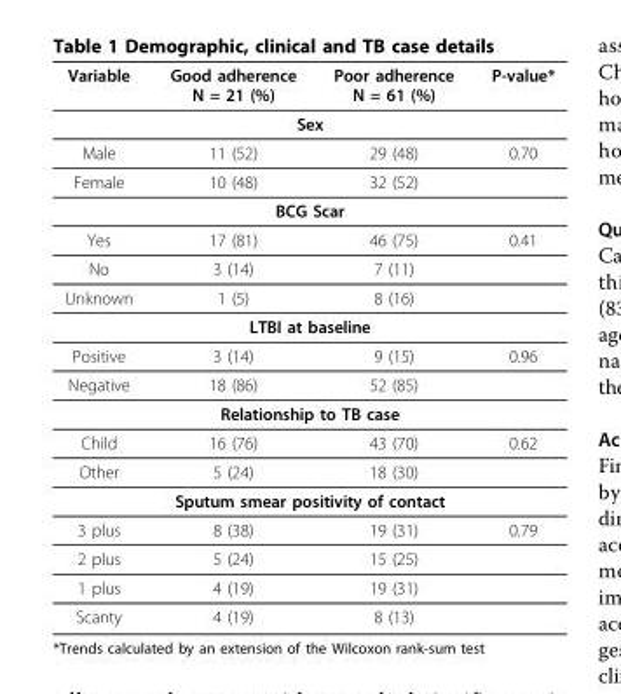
<table><thead><tr><td>Variable</td><td>Good adherence N = 21 (%)</td><td>Poor adherence N = 61 (%)</td><td>P-value*</td></tr></thead><tbody><tr><td colspan="4">Sex</td></tr><tr><td>Male</td><td>11 (52)</td><td>29 (48)</td><td>0.70</td></tr><tr><td>Female</td><td>10 (48)</td><td>32 (52)</td><td></td></tr><tr><td colspan="4">BCG Scar</td></tr><tr><td>Yes</td><td>17 (81)</td><td>46 (75)</td><td>0.41</td></tr><tr><td>No</td><td>3 (14)</td><td>7 (11)</td><td></td></tr><tr><td>Unknown</td><td>1 (5)</td><td>8 (16)</td><td></td></tr><tr><td colspan="4">LTBI at baseline</td></tr><tr><td>Positive</td><td>3 (14)</td><td>9 (15)</td><td>0.96</td></tr><tr><td>Negative</td><td>18 (86)</td><td>52 (85)</td><td></td></tr><tr><td colspan="4">Relationship to TB case</td></tr><tr><td>Child</td><td>16 (76)</td><td>43 (70)</td><td>0.62</td></tr><tr><td>Other</td><td>5 (24)</td><td>18 (30)</td><td></td></tr><tr><td colspan="4">Sputum smear positivity of contact</td></tr><tr><td>3 plus</td><td>8 (38)</td><td>19 (31)</td><td>0.79</td></tr><tr><td>2 plus</td><td>5 (24)</td><td>15 (25)</td><td></td></tr><tr><td>1 plus</td><td>4 (19)</td><td>19 (31)</td><td></td></tr><tr><td>Scanty</td><td>4 (19)</td><td>8 (13)</td><td></td></tr></tbody></table>